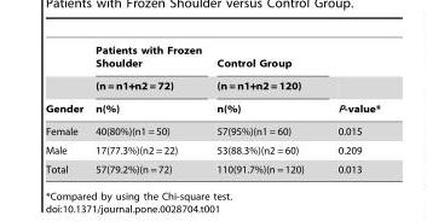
<table><thead><tr><td rowspan="3">Gender</td><td rowspan="3">Patients with Frozen Shoulder (n = n1+n2 = 72) n(%)</td><td rowspan="3">Control Group (n = n1+n2 = 120) n(%)</td><td rowspan="3">P-value*</td></tr><tr></tr><tr></tr></thead><tbody><tr><td>Female</td><td>40(80%)(n1 = 50)</td><td>57(95%)(n1 = 60)</td><td>0.015</td></tr><tr><td>Male</td><td>17(77.3%)(n2 = 22)</td><td>53(88.3%)(n2 = 60)</td><td>0.209</td></tr><tr><td>Total</td><td>57(79.2%)(n = 72)</td><td>110(91.7%)(n = 120)</td><td>0.013</td></tr></tbody></table>